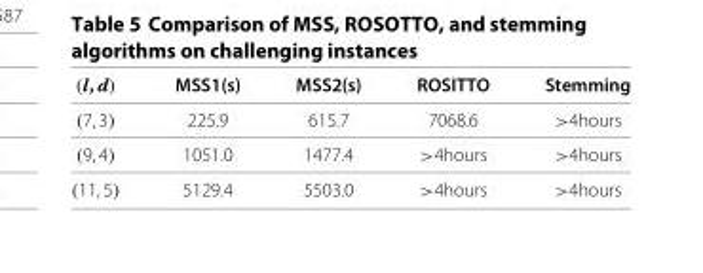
<table><thead><tr><td>(l, d)</td><td>MSS1(s)</td><td>MSS2(s)</td><td>ROSITTO</td><td>Stemming</td></tr></thead><tbody><tr><td>(7, 3)</td><td>225.9</td><td>615.7</td><td>7068.6</td><td>&gt;4hours</td></tr><tr><td>(9, 4)</td><td>1051.0</td><td>1477.4</td><td>&gt;4hours</td><td>&gt;4hours</td></tr><tr><td>(11, 5)</td><td>5129.4</td><td>5503.0</td><td>&gt;4hours</td><td>&gt;4hours</td></tr></tbody></table>